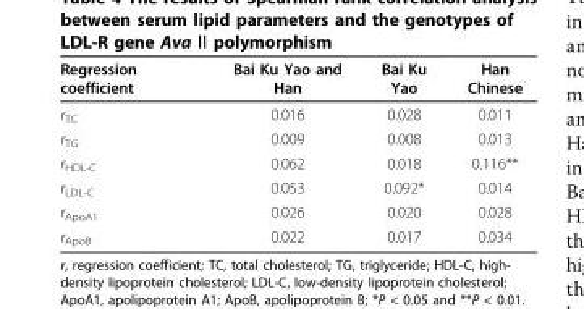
<table><thead><tr><td>Regression coefficient</td><td>Bai Ku Yao and Han</td><td>Bai Ku Yao</td><td>Han Chinese</td></tr></thead><tbody><tr><td>r<sub>TC</sub></td><td>0.016</td><td>0.028</td><td>0.011</td></tr><tr><td>r<sub>TG</sub></td><td>0.009</td><td>0.008</td><td>0.013</td></tr><tr><td>r<sub>HDL-C</sub></td><td>0.062</td><td>0.018</td><td>0.116**</td></tr><tr><td>r<sub>LDL-C</sub></td><td>0.053</td><td>0.092*</td><td>0.014</td></tr><tr><td>r<sub>ApoA1</sub></td><td>0.026</td><td>0.020</td><td>0.028</td></tr><tr><td>r<sub>ApoB</sub></td><td>0.022</td><td>0.017</td><td>0.034</td></tr></tbody></table>